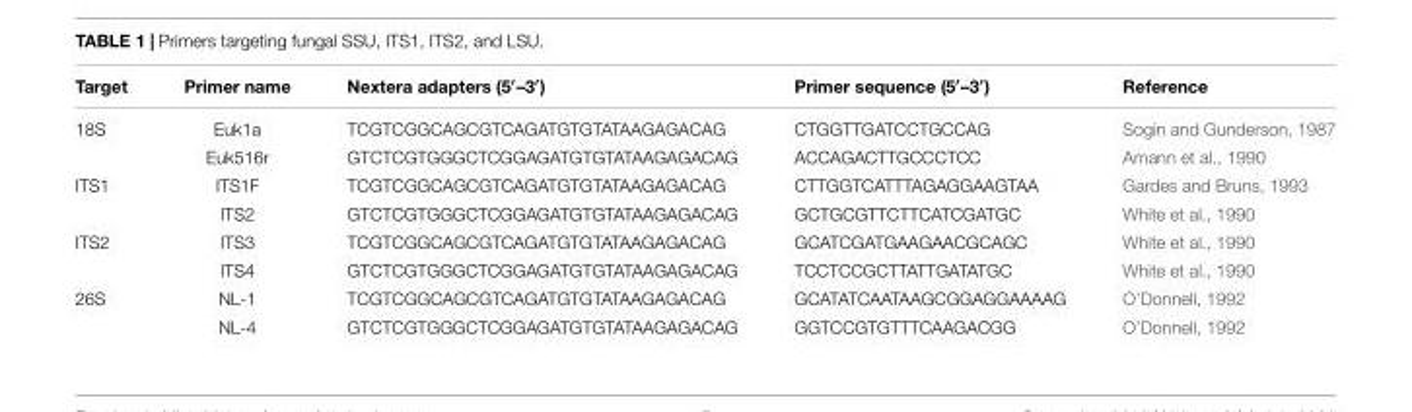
<table><thead><tr><td>Target</td><td>Primer name</td><td>Nextera adapters (5′–3′)</td><td>Primer sequence (5′–3′)</td><td>Reference</td></tr></thead><tbody><tr><td rowspan="2">18S</td><td>Euk1a</td><td>TCGTCGGCAGCGTCAGATGTGTATAAGAGACAG</td><td>CTGGTTGATCCTGCCAG</td><td>Sogin and Gunderson, 1987</td></tr><tr><td>Euk516r</td><td>GTCTCGTGGGCTCGGAGATGTGTATAAGAGACAG</td><td>ACCAGACTTGCCCTCC</td><td>Amann et al., 1990</td></tr><tr><td rowspan="2">ITS1</td><td>ITS1F</td><td>TCGTCGGCAGCGTCAGATGTGTATAAGAGACAG</td><td>CTTGGTCATTTAGAGGAAGTAA</td><td>Gardes and Bruns, 1993</td></tr><tr><td>ITS2</td><td>GTCTCGTGGGCTCGGAGATGTGTATAAGAGACAG</td><td>GCTGCGTTCTTCATCGATGC</td><td>White et al., 1990</td></tr><tr><td rowspan="2">ITS2</td><td>ITS3</td><td>TCGTCGGCAGCGTCAGATGTGTATAAGAGACAG</td><td>GCATCGATGAAGAACGCAGC</td><td>White et al., 1990</td></tr><tr><td>ITS4</td><td>GTCTCGTGGGCTCGGAGATGTGTATAAGAGACAG</td><td>TCCTCCGCTTATTGATATGC</td><td>White et al., 1990</td></tr><tr><td rowspan="2">26S</td><td>NL-1</td><td>TCGTCGGCAGCGTCAGATGTGTATAAGAGACAG</td><td>GCATATCAATAAGCGGAGGAAAAG</td><td>O’Donnell, 1992</td></tr><tr><td>NL-4</td><td>GTCTCGTGGGCTCGGAGATGTGTATAAGAGACAG</td><td>GGTCCGTGTTTCAAGACGG</td><td>O’Donnell, 1992</td></tr></tbody></table>